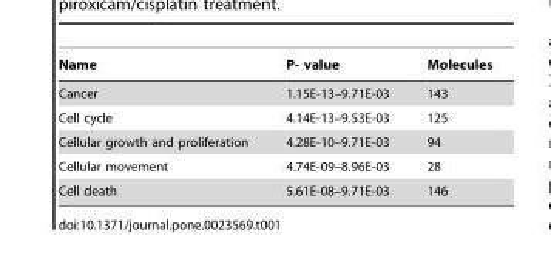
<table><thead><tr><td>Name</td><td>P- value</td><td>Molecules</td></tr></thead><tbody><tr><td>Cancer</td><td>1.15E-13–9.71E-03</td><td>143</td></tr><tr><td>Cell cycle</td><td>4.14E-13–9.53E-03</td><td>125</td></tr><tr><td>Cellular growth and proliferation</td><td>4.28E-10–9.71E-03</td><td>94</td></tr><tr><td>Cellular movement</td><td>4.74E-09–8.96E-03</td><td>28</td></tr><tr><td>Cell death</td><td>5.61E-08–9.71E-03</td><td>146</td></tr></tbody></table>